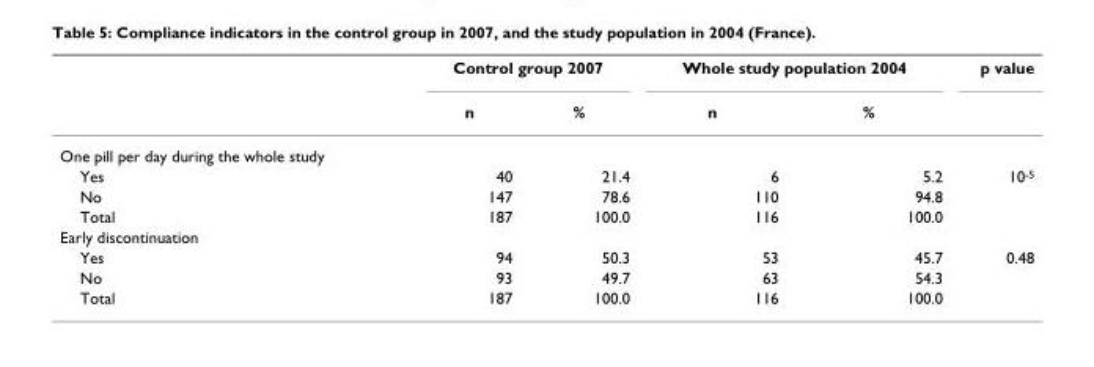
<table><thead><tr><td rowspan="2"></td><td colspan="2">Control group 2007</td><td colspan="2">Whole study population 2004</td><td rowspan="2">p value</td></tr><tr><td>n</td><td>%</td><td>n</td><td>%</td></tr></thead><tbody><tr><td colspan="6">One pill per day during the whole study</td></tr><tr><td>Yes</td><td>40</td><td>21.4</td><td>6</td><td>5.2</td><td>10<sup>-5</sup></td></tr><tr><td>No</td><td>147</td><td>78.6</td><td>110</td><td>94.8</td><td></td></tr><tr><td>Total</td><td>187</td><td>100.0</td><td>116</td><td>100.0</td><td></td></tr><tr><td colspan="6">Early discontinuation</td></tr><tr><td>Yes</td><td>94</td><td>50.3</td><td>53</td><td>45.7</td><td>0.48</td></tr><tr><td>No</td><td>93</td><td>49.7</td><td>63</td><td>54.3</td><td></td></tr><tr><td>Total</td><td>187</td><td>100.0</td><td>116</td><td>100.0</td><td></td></tr></tbody></table>